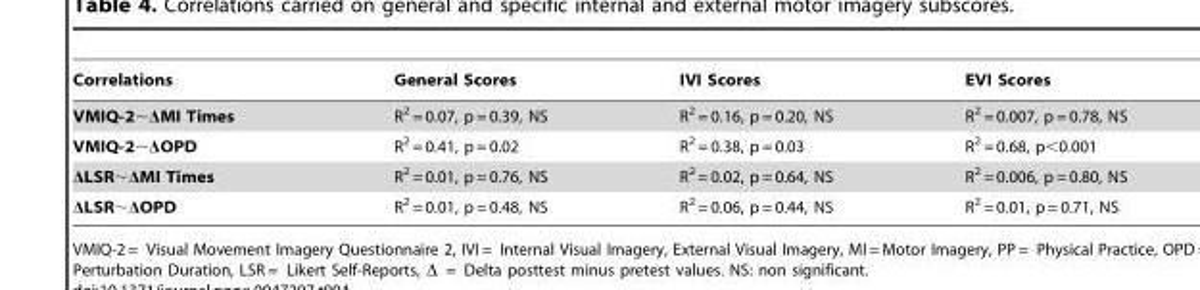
<table><thead><tr><td>Correlations</td><td>General Scores</td><td>IVI Scores</td><td>EVI Scores</td></tr></thead><tbody><tr><td>VMIQ-2∼ΔMI Times</td><td>R<sup>2</sup> = 0.07, p = 0.39, NS</td><td>R<sup>2</sup> = 0.16, p = 0.20, NS</td><td>R<sup>2</sup> = 0.007, p = 0.78, NS</td></tr><tr><td>VMIQ-2∼ΔOPD</td><td>R<sup>2</sup> = 0.41, p = 0.02</td><td>R<sup>2</sup> = 0.38, p = 0.03</td><td>R<sup>2</sup> = 0.68, p&lt;0.001</td></tr><tr><td>ΔLSR∼ΔMI Times</td><td>R<sup>2</sup> = 0.01, p = 0.76, NS</td><td>R<sup>2</sup> = 0.02, p = 0.64, NS</td><td>R<sup>2</sup> = 0.006, p = 0.80, NS</td></tr><tr><td>ΔLSR∼ΔOPD</td><td>R<sup>2</sup> = 0.01, p = 0.48, NS</td><td>R<sup>2</sup> = 0.06, p = 0.44, NS</td><td>R<sup>2</sup> = 0.01, p = 0.71, NS</td></tr></tbody></table>